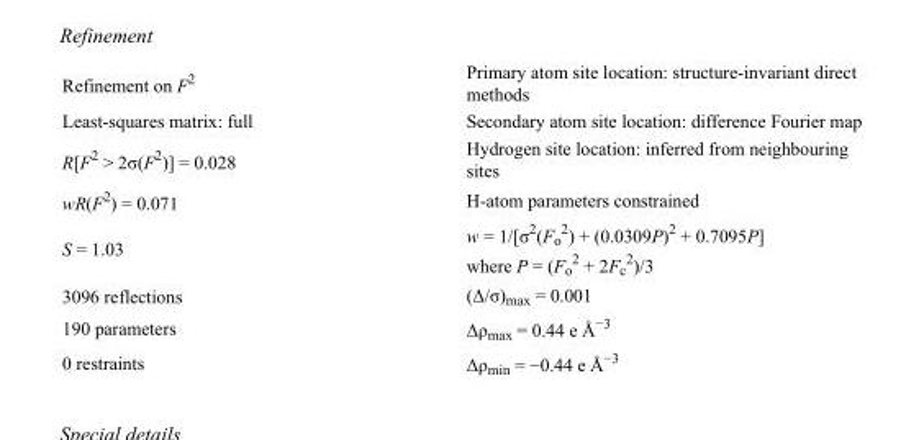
<table><tbody><tr><td>Refinement on F<sup>2</sup></td><td>Primary atom site location: structure-invariant direct methods</td></tr><tr><td>Least-squares matrix: full</td><td>Secondary atom site location: difference Fourier map</td></tr><tr><td>R[F<sup>2</sup> &gt; 2σ(F<sup>2</sup>)] = 0.028</td><td>Hydrogen site location: inferred from neighbouring sites</td></tr><tr><td>wR(F<sup>2</sup>) = 0.071</td><td>H-atom parameters constrained</td></tr><tr><td>S = 1.03</td><td>w = 1/[σ<sup>2</sup>(F<sub>o</sub> <sup>2</sup>) + (0.0309P)<sup>2</sup> + 0.7095P] where P = (F<sub>o</sub> <sup>2</sup> + 2F<sub>c</sub> <sup>2</sup>)/3</td></tr><tr><td>3096 reflections</td><td>(Δ/σ)<sub>max</sub> = 0.001</td></tr><tr><td>190 parameters</td><td>Δρ<sub>max</sub> = 0.44 e Å<sup>−3</sup></td></tr><tr><td>0 restraints</td><td>Δρ<sub>min</sub> = −0.44 e Å<sup>−3</sup></td></tr></tbody></table>